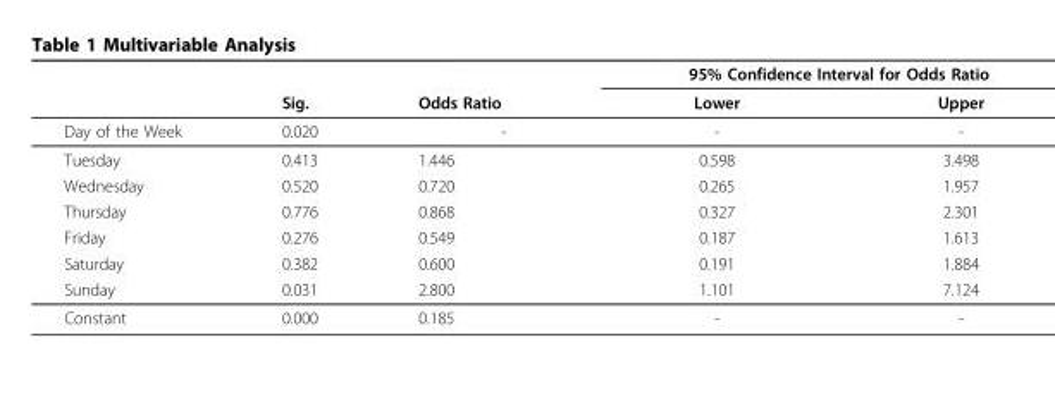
<table><thead><tr><td rowspan="2"></td><td rowspan="2">Sig.</td><td rowspan="2">Odds Ratio</td><td colspan="2">95% Confidence Interval for Odds Ratio</td></tr><tr><td>Lower</td><td>Upper</td></tr></thead><tbody><tr><td>Day of the Week</td><td>0.020</td><td>-</td><td>-</td><td>-</td></tr><tr><td>Tuesday</td><td>0.413</td><td>1.446</td><td>0.598</td><td>3.498</td></tr><tr><td>Wednesday</td><td>0.520</td><td>0.720</td><td>0.265</td><td>1.957</td></tr><tr><td>Thursday</td><td>0.776</td><td>0.868</td><td>0.327</td><td>2.301</td></tr><tr><td>Friday</td><td>0.276</td><td>0.549</td><td>0.187</td><td>1.613</td></tr><tr><td>Saturday</td><td>0.382</td><td>0.600</td><td>0.191</td><td>1.884</td></tr><tr><td>Sunday</td><td>0.031</td><td>2.800</td><td>1.101</td><td>7.124</td></tr><tr><td>Constant</td><td>0.000</td><td>0.185</td><td>-</td><td>-</td></tr></tbody></table>